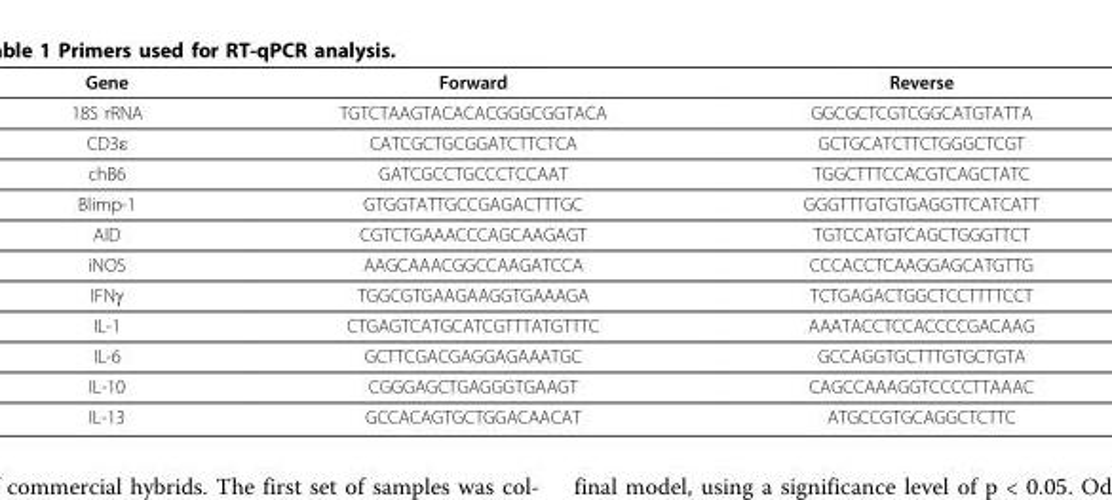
<table><thead><tr><td>Gene</td><td>Forward</td><td>Reverse</td></tr></thead><tbody><tr><td>18S rRNA</td><td>TGTCTAAGTACACACGGGCGGTACA</td><td>GGCGCTCGTCGGCATGTATTA</td></tr><tr><td>CD3ε</td><td>CATCGCTGCGGATCTTCTCA</td><td>GCTGCATCTTCTGGGCTCGT</td></tr><tr><td>chB6</td><td>GATCGCCTGCCCTCCAAT</td><td>TGGCTTTCCACGTCAGCTATC</td></tr><tr><td>Blimp-1</td><td>GTGGTATTGCCGAGACTTTGC</td><td>GGGTTTGTGTGAGGTTCATCATT</td></tr><tr><td>AID</td><td>CGTCTGAAACCCAGCAAGAGT</td><td>TGTCCATGTCAGCTGGGTTCT</td></tr><tr><td>iNOS</td><td>AAGCAAACGGCCAAGATCCA</td><td>CCCACCTCAAGGAGCATGTTG</td></tr><tr><td>IFNγ</td><td>TGGCGTGAAGAAGGTGAAAGA</td><td>TCTGAGACTGGCTCCTTTTCCT</td></tr><tr><td>IL-1</td><td>CTGAGTCATGCATCGTTTATGTTTC</td><td>AAATACCTCCACCCCGACAAG</td></tr><tr><td>IL-6</td><td>GCTTCGACGAGGAGAAATGC</td><td>GCCAGGTGCTTTGTGCTGTA</td></tr><tr><td>IL-10</td><td>CGGGAGCTGAGGGTGAAGT</td><td>CAGCCAAAGGTCCCCTTAAAC</td></tr><tr><td>IL-13</td><td>GCCACAGTGCTGGACAACAT</td><td>ATGCCGTGCAGGCTCTTC</td></tr></tbody></table>